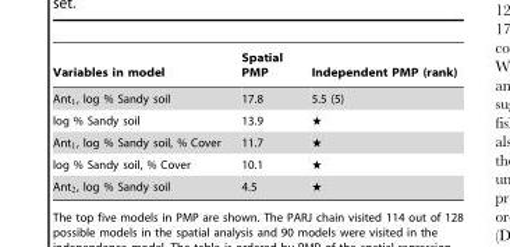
<table><thead><tr><td>Variables in model</td><td>Spatial PMP</td><td>Independent PMP (rank)</td></tr></thead><tbody><tr><td>Ant1, log % Sandy soil</td><td>17.8</td><td>5.5 (5)</td></tr><tr><td>log % Sandy soil</td><td>13.9</td><td>★</td></tr><tr><td>Ant1, log % Sandy soil, % Cover</td><td>11.7</td><td>★</td></tr><tr><td>log % Sandy soil, % Cover</td><td>10.1</td><td>★</td></tr><tr><td>Ant2, log % Sandy soil</td><td>4.5</td><td>★</td></tr></tbody></table>